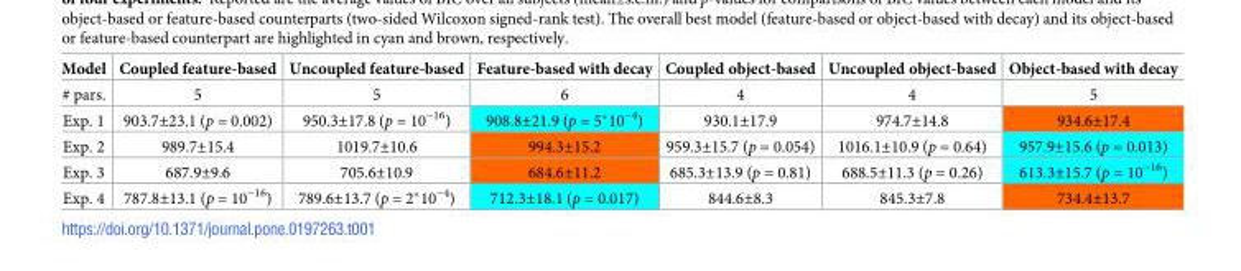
<table><thead><tr><td>Model</td><td>Coupled feature-based</td><td>Uncoupled feature-based</td><td>Feature-based with decay</td><td>Coupled object-based</td><td>Uncoupled object-based</td><td>Object-based with decay</td></tr></thead><tbody><tr><td># pars.</td><td>5</td><td>5</td><td>6</td><td>4</td><td>4</td><td>5</td></tr><tr><td>Exp. 1</td><td>903.7±23.1 (p = 0.002)</td><td>950.3±17.8 (p = 10<sup>−16</sup>)</td><td>908.8±21.9 (p = 5*10<sup>−4</sup>)</td><td>930.1±17.9</td><td>974.7±14.8</td><td>934.6±17.4</td></tr><tr><td>Exp. 2</td><td>989.7±15.4</td><td>1019.7±10.6</td><td>994.3±15.2</td><td>959.3±15.7 (p = 0.054)</td><td>1016.1±10.9 (p = 0.64)</td><td>957.9±15.6 (p = 0.013)</td></tr><tr><td>Exp. 3</td><td>687.9±9.6</td><td>705.6±10.9</td><td>684.6±11.2</td><td>685.3±13.9 (p = 0.81)</td><td>688.5±11.3 (p = 0.26)</td><td>613.3±15.7 (p = 10<sup>−16</sup>)</td></tr><tr><td>Exp. 4</td><td>787.8±13.1 (p = 10<sup>−16</sup>)</td><td>789.6±13.7 (p = 2*10<sup>−4</sup>)</td><td>712.3±18.1 (p = 0.017)</td><td>844.6±8.3</td><td>845.3±7.8</td><td>734.4±13.7</td></tr></tbody></table>